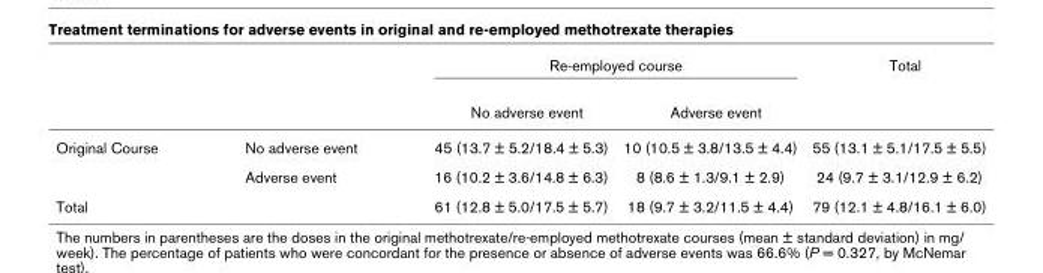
<table><thead><tr><td rowspan="2"></td><td rowspan="2"></td><td colspan="2">Re-employed course</td><td rowspan="2">Total</td></tr><tr><td>No adverse event</td><td>Adverse event</td></tr></thead><tbody><tr><td rowspan="2">Original Course</td><td>No adverse event</td><td>45 (13.7 ± 5.2/18.4 ± 5.3)</td><td>10 (10.5 ± 3.8/13.5 ± 4.4)</td><td>55 (13.1 ± 5.1/17.5 ± 5.5)</td></tr><tr><td>Adverse event</td><td>16 (10.2 ± 3.6/14.8 ± 6.3)</td><td>8 (8.6 ± 1.3/9.1 ± 2.9)</td><td>24 (9.7 ± 3.1/12.9 ± 6.2)</td></tr><tr><td colspan="2">Total</td><td>61 (12.8 ± 5.0/17.5 ± 5.7)</td><td>18 (9.7 ± 3.2/11.5 ± 4.4)</td><td>79 (12.1 ± 4.8/16.1 ± 6.0)</td></tr></tbody></table>